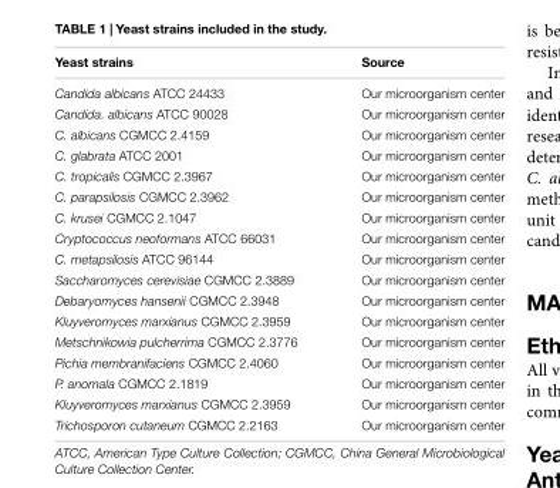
<table><thead><tr><td>Yeast strains</td><td>Source</td></tr></thead><tbody><tr><td>Candida albicans ATCC 24433</td><td>Our microorganism center</td></tr><tr><td>Candida. albicans ATCC 90028</td><td>Our microorganism center</td></tr><tr><td>C. albicans CGMCC 2.4159</td><td>Our microorganism center</td></tr><tr><td>C. glabrata ATCC 2001</td><td>Our microorganism center</td></tr><tr><td>C. tropicalis CGMCC 2.3967</td><td>Our microorganism center</td></tr><tr><td>C. parapsilosis CGMCC 2.3962</td><td>Our microorganism center</td></tr><tr><td>C. krusei CGMCC 2.1047</td><td>Our microorganism center</td></tr><tr><td>Cryptococcus neoformans ATCC 66031</td><td>Our microorganism center</td></tr><tr><td>C. metapsilosis ATCC 96144</td><td>Our microorganism center</td></tr><tr><td>Saccharomyces cerevisiae CGMCC 2.3889</td><td>Our microorganism center</td></tr><tr><td>Debaryomyces hansenii CGMCC 2.3948</td><td>Our microorganism center</td></tr><tr><td>Kluyveromyces marxianus CGMCC 2.3959</td><td>Our microorganism center</td></tr><tr><td>Metschnikowia pulcherrima CGMCC 2.3776</td><td>Our microorganism center</td></tr><tr><td>Pichia membranifaciens CGMCC 2.4060</td><td>Our microorganism center</td></tr><tr><td>P. anomala CGMCC 2.1819</td><td>Our microorganism center</td></tr><tr><td>Kluyveromyces marxianus CGMCC 2.3959</td><td>Our microorganism center</td></tr><tr><td>Trichosporon cutaneum CGMCC 2.2163</td><td>Our microorganism center</td></tr></tbody></table>